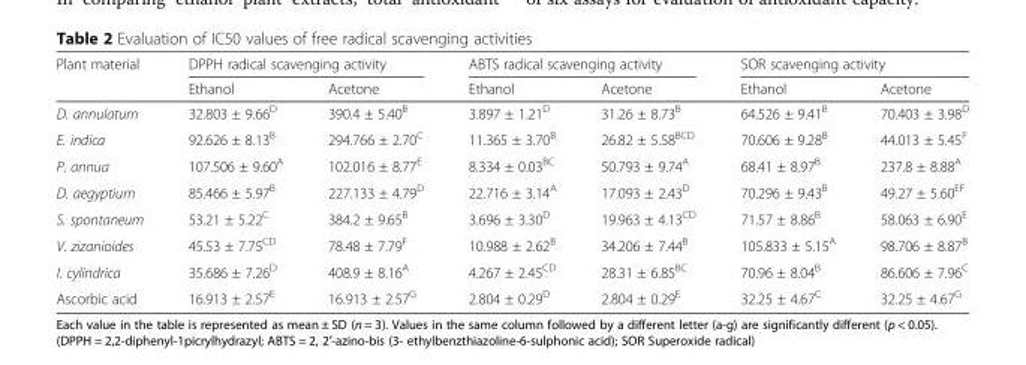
<table><thead><tr><td rowspan="2">Plant material</td><td colspan="2">DPPH radical scavenging activity</td><td colspan="2">ABTS radical scavenging activity</td><td colspan="2">SOR scavenging activity</td></tr><tr><td>Ethanol</td><td>Acetone</td><td>Ethanol</td><td>Acetone</td><td>Ethanol</td><td>Acetone</td></tr></thead><tbody><tr><td>D. annulatum</td><td>32.803 ± 9.66<sup>D</sup></td><td>390.4 ± 5.40<sup>B</sup></td><td>3.897 ± 1.21<sup>D</sup></td><td>31.26 ± 8.73<sup>B</sup></td><td>64.526 ± 9.41<sup>B</sup></td><td>70.403 ± 3.98<sup>D</sup></td></tr><tr><td>E. indica</td><td>92.626 ± 8.13<sup>B</sup></td><td>294.766 ± 2.70<sup>C</sup></td><td>11.365 ± 3.70<sup>B</sup></td><td>26.82 ± 5.58<sup>BCD</sup></td><td>70.606 ± 9.28<sup>B</sup></td><td>44.013 ± 5.45<sup>F</sup></td></tr><tr><td>P. annua</td><td>107.506 ± 9.60<sup>A</sup></td><td>102.016 ± 8.77<sup>E</sup></td><td>8.334 ± 0.03<sup>BC</sup></td><td>50.793 ± 9.74<sup>A</sup></td><td>68.41 ± 8.97<sup>B</sup></td><td>237.8 ± 8.88<sup>A</sup></td></tr><tr><td>D. aegyptium</td><td>85.466 ± 5.97<sup>B</sup></td><td>227.133 ± 4.79<sup>D</sup></td><td>22.716 ± 3.14<sup>A</sup></td><td>17.093 ± 2.43<sup>D</sup></td><td>70.296 ± 9.43<sup>B</sup></td><td>49.27 ± 5.60<sup>EF</sup></td></tr><tr><td>S. spontaneum</td><td>53.21 ± 5.22<sup>C</sup></td><td>384.2 ± 9.65<sup>B</sup></td><td>3.696 ± 3.30<sup>D</sup></td><td>19.963 ± 4.13<sup>CD</sup></td><td>71.57 ± 8.86<sup>B</sup></td><td>58.063 ± 6.90<sup>E</sup></td></tr><tr><td>V. zizanioides</td><td>45.53 ± 7.75<sup>CD</sup></td><td>78.48 ± 7.79<sup>F</sup></td><td>10.988 ± 2.62<sup>B</sup></td><td>34.206 ± 7.44<sup>B</sup></td><td>105.833 ± 5.15<sup>A</sup></td><td>98.706 ± 8.87<sup>B</sup></td></tr><tr><td>I. cylindrica</td><td>35.686 ± 7.26<sup>D</sup></td><td>408.9 ± 8.16<sup>A</sup></td><td>4.267 ± 2.45<sup>CD</sup></td><td>28.31 ± 6.85<sup>BC</sup></td><td>70.96 ± 8.04<sup>B</sup></td><td>86.606 ± 7.96<sup>C</sup></td></tr><tr><td>Ascorbic acid</td><td>16.913 ± 2.57<sup>E</sup></td><td>16.913 ± 2.57<sup>G</sup></td><td>2.804 ± 0.29<sup>D</sup></td><td>2.804 ± 0.29<sup>E</sup></td><td>32.25 ± 4.67<sup>C</sup></td><td>32.25 ± 4.67<sup>G</sup></td></tr></tbody></table>